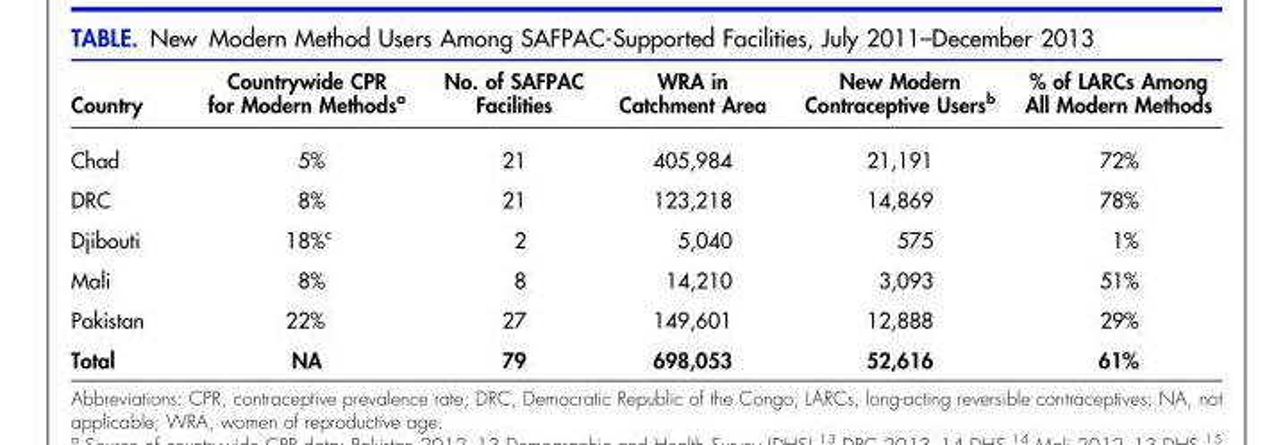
<table><thead><tr><td>Country</td><td>Countrywide CPR for Modern Methods<sup>a</sup></td><td>No. of SAFPAC Facilities</td><td>WRA in Catchment Area</td><td>New Modern Contraceptive Users<sup>b</sup></td><td>% of LARCs Among All Modern Methods</td></tr></thead><tbody><tr><td>Chad</td><td>5%</td><td>21</td><td>405,984</td><td>21,191</td><td>72%</td></tr><tr><td>DRC</td><td>8%</td><td>21</td><td>123,218</td><td>14,869</td><td>78%</td></tr><tr><td>Djibouti</td><td>18%<sup>c</sup></td><td>2</td><td>5,040</td><td>575</td><td>1%</td></tr><tr><td>Mali</td><td>8%</td><td>8</td><td>14,210</td><td>3,093</td><td>51%</td></tr><tr><td>Pakistan</td><td>22%</td><td>27</td><td>149,601</td><td>12,888</td><td>29%</td></tr><tr><td>Total</td><td>NA</td><td>79</td><td>698,053</td><td>52,616</td><td>61%</td></tr></tbody></table>